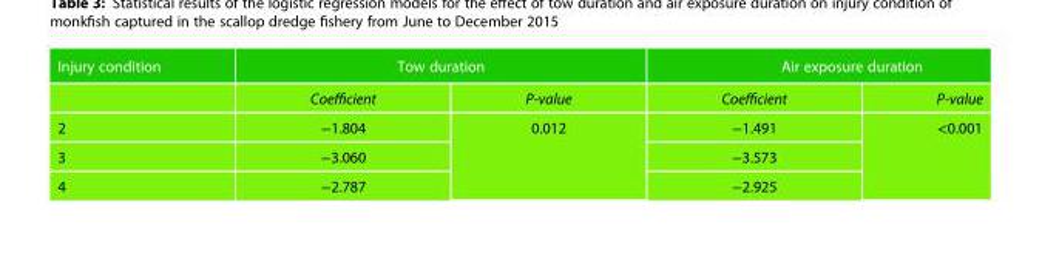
<table><thead><tr><td rowspan="2">Injury condition</td><td colspan="2">Tow duration</td><td colspan="2">Air exposure duration</td></tr><tr><td>Coefficient</td><td>P-value</td><td>Coefficient</td><td>P-value</td></tr></thead><tbody><tr><td>2</td><td>−1.804</td><td rowspan="3">0.012</td><td>−1.491</td><td rowspan="3">&lt;0.001</td></tr><tr><td>3</td><td>−3.060</td><td>−3.573</td></tr><tr><td>4</td><td>−2.787</td><td>−2.925</td></tr></tbody></table>